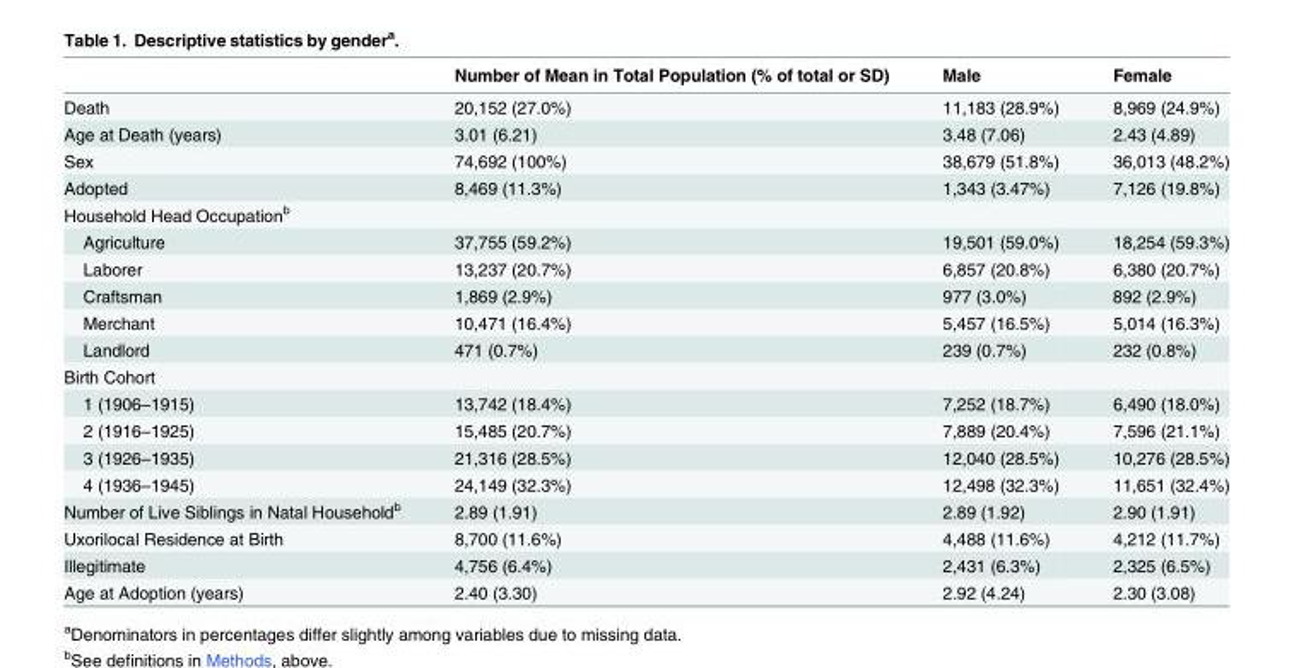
<table><thead><tr><td></td><td>Number of Mean in Total Population (% of total or SD)</td><td>Male</td><td>Female</td></tr></thead><tbody><tr><td>Death</td><td>20,152 (27.0%)</td><td>11,183 (28.9%)</td><td>8,969 (24.9%)</td></tr><tr><td>Age at Death (years)</td><td>3.01 (6.21)</td><td>3.48 (7.06)</td><td>2.43 (4.89)</td></tr><tr><td>Sex</td><td>74,692 (100%)</td><td>38,679 (51.8%)</td><td>36,013 (48.2%)</td></tr><tr><td>Adopted</td><td>8,469 (11.3%)</td><td>1,343 (3.47%)</td><td>7,126 (19.8%)</td></tr><tr><td colspan="4">Household Head Occupation<sup>b</sup></td></tr><tr><td>Agriculture</td><td>37,755 (59.2%)</td><td>19,501 (59.0%)</td><td>18,254 (59.3%)</td></tr><tr><td>Laborer</td><td>13,237 (20.7%)</td><td>6,857 (20.8%)</td><td>6,380 (20.7%)</td></tr><tr><td>Craftsman</td><td>1,869 (2.9%)</td><td>977 (3.0%)</td><td>892 (2.9%)</td></tr><tr><td>Merchant</td><td>10,471 (16.4%)</td><td>5,457 (16.5%)</td><td>5,014 (16.3%)</td></tr><tr><td>Landlord</td><td>471 (0.7%)</td><td>239 (0.7%)</td><td>232 (0.8%)</td></tr><tr><td colspan="4">Birth Cohort</td></tr><tr><td>1 (1906–1915)</td><td>13,742 (18.4%)</td><td>7,252 (18.7%)</td><td>6,490 (18.0%)</td></tr><tr><td>2 (1916–1925)</td><td>15,485 (20.7%)</td><td>7,889 (20.4%)</td><td>7,596 (21.1%)</td></tr><tr><td>3 (1926–1935)</td><td>21,316 (28.5%)</td><td>12,040 (28.5%)</td><td>10,276 (28.5%)</td></tr><tr><td>4 (1936–1945)</td><td>24,149 (32.3%)</td><td>12,498 (32.3%)</td><td>11,651 (32.4%)</td></tr><tr><td>Number of Live Siblings in Natal Household<sup>b</sup></td><td>2.89 (1.91)</td><td>2.89 (1.92)</td><td>2.90 (1.91)</td></tr><tr><td>Uxorilocal Residence at Birth</td><td>8,700 (11.6%)</td><td>4,488 (11.6%)</td><td>4,212 (11.7%)</td></tr><tr><td>Illegitimate</td><td>4,756 (6.4%)</td><td>2,431 (6.3%)</td><td>2,325 (6.5%)</td></tr><tr><td>Age at Adoption (years)</td><td>2.40 (3.30)</td><td>2.92 (4.24)</td><td>2.30 (3.08)</td></tr></tbody></table>